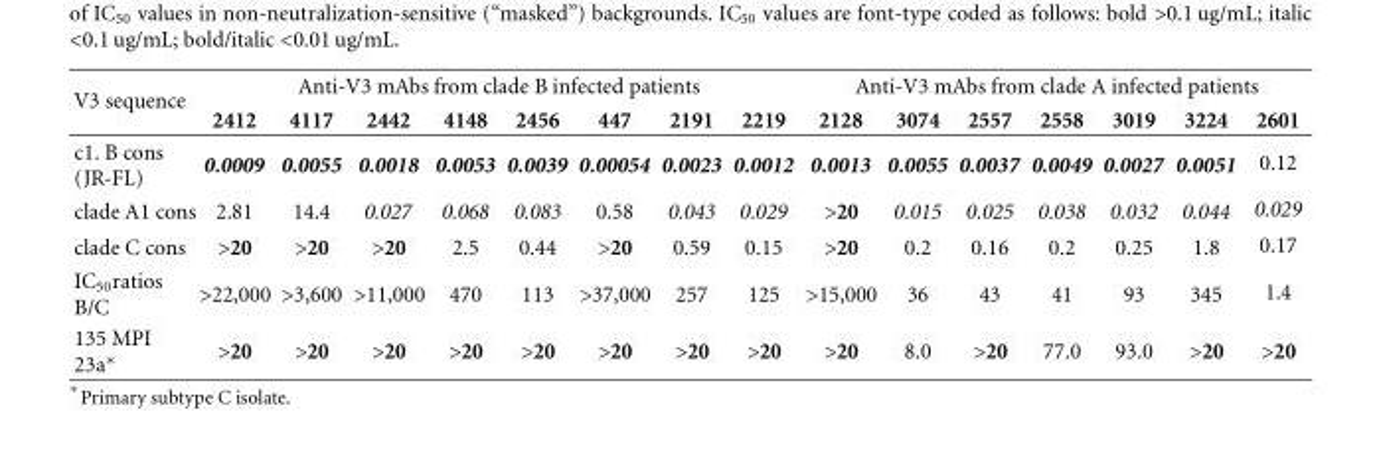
<table><thead><tr><td rowspan="2">V3 sequence</td><td colspan="8">Anti-V3 mAbs from clade B infected patients</td><td colspan="7">Anti-V3 mAbs from clade A infected patients</td></tr><tr><td>2412</td><td>4117</td><td>2442</td><td>4148</td><td>2456</td><td>447</td><td>2191</td><td>2219</td><td>2128</td><td>3074</td><td>2557</td><td>2558</td><td>3019</td><td>3224</td><td>2601</td></tr></thead><tbody><tr><td>c1. B cons (JR-FL)</td><td>0.0009</td><td>0.0055</td><td>0.0018</td><td>0.0053</td><td>0.0039</td><td>0.00054</td><td>0.0023</td><td>0.0012</td><td>0.0013</td><td>0.0055</td><td>0.0037</td><td>0.0049</td><td>0.0027</td><td>0.0051</td><td>0.12</td></tr><tr><td>clade A1 cons</td><td>2.81</td><td>14.4</td><td>0.027</td><td>0.068</td><td>0.083</td><td>0.58</td><td>0.043</td><td>0.029</td><td>&gt;20</td><td>0.015</td><td>0.025</td><td>0.038</td><td>0.032</td><td>0.044</td><td>0.029</td></tr><tr><td>clade C cons</td><td>&gt;20</td><td>&gt;20</td><td>&gt;20</td><td>2.5</td><td>0.44</td><td>&gt;20</td><td>0.59</td><td>0.15</td><td>&gt;20</td><td>0.2</td><td>0.16</td><td>0.2</td><td>0.25</td><td>1.8</td><td>0.17</td></tr><tr><td>IC<sub>50</sub>ratios B/C</td><td>&gt;22,000</td><td>&gt;3,600</td><td>&gt;11,000</td><td>470</td><td>113</td><td>&gt;37,000</td><td>257</td><td>125</td><td>&gt;15,000</td><td>36</td><td>43</td><td>41</td><td>93</td><td>345</td><td>1.4</td></tr><tr><td>135 MPI 23a∗</td><td>&gt;20</td><td>&gt;20</td><td>&gt;20</td><td>&gt;20</td><td>&gt;20</td><td>&gt;20</td><td>&gt;20</td><td>&gt;20</td><td>&gt;20</td><td>8.0</td><td>&gt;20</td><td>77.0</td><td>93.0</td><td>&gt;20</td><td>&gt;20</td></tr></tbody></table>